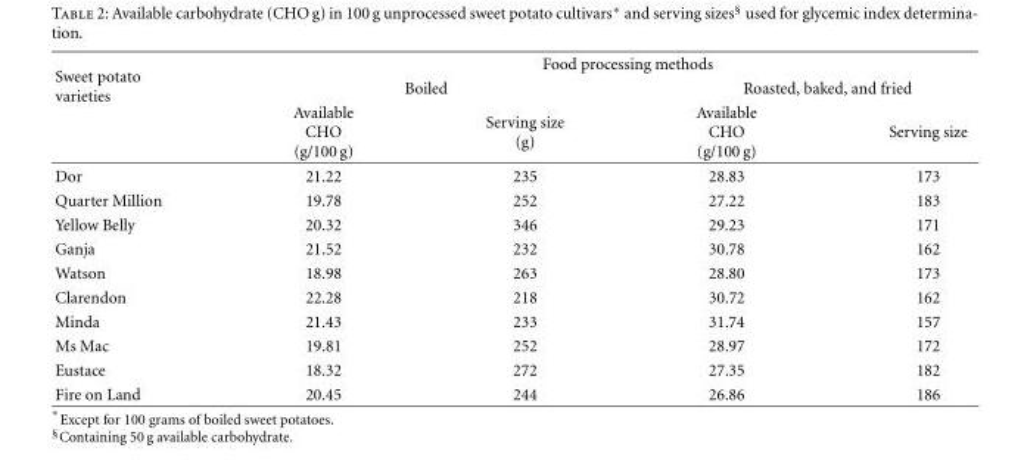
<table><thead><tr><td rowspan="3">Sweet potato varieties</td><td colspan="4">Food processing methods</td></tr><tr><td colspan="2">Boiled</td><td colspan="2">Roasted, baked, and fried</td></tr><tr><td>Available CHO (g/100 g)</td><td>Serving size (g)</td><td>Available CHO (g/100 g)</td><td>Serving size</td></tr></thead><tbody><tr><td>Dor</td><td>21.22</td><td>235</td><td>28.83</td><td>173</td></tr><tr><td>Quarter Million</td><td>19.78</td><td>252</td><td>27.22</td><td>183</td></tr><tr><td>Yellow Belly</td><td>20.32</td><td>346</td><td>29.23</td><td>171</td></tr><tr><td>Ganja</td><td>21.52</td><td>232</td><td>30.78</td><td>162</td></tr><tr><td>Watson</td><td>18.98</td><td>263</td><td>28.80</td><td>173</td></tr><tr><td>Clarendon</td><td>22.28</td><td>218</td><td>30.72</td><td>162</td></tr><tr><td>Minda</td><td>21.43</td><td>233</td><td>31.74</td><td>157</td></tr><tr><td>Ms Mac</td><td>19.81</td><td>252</td><td>28.97</td><td>172</td></tr><tr><td>Eustace</td><td>18.32</td><td>272</td><td>27.35</td><td>182</td></tr><tr><td>Fire on Land</td><td>20.45</td><td>244</td><td>26.86</td><td>186</td></tr></tbody></table>